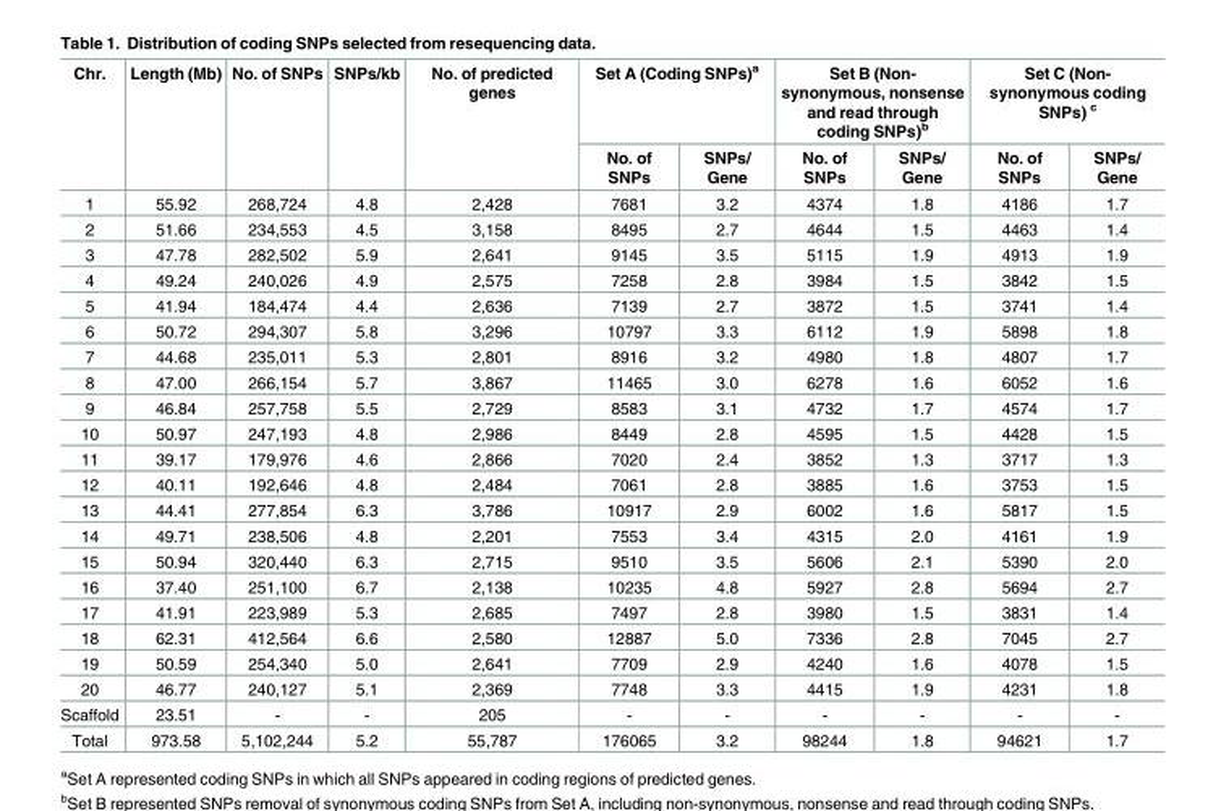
<table><thead><tr><td rowspan="2">Chr.</td><td rowspan="2">Length (Mb)</td><td rowspan="2">No. of SNPs</td><td rowspan="2">SNPs/kb</td><td rowspan="2">No. of predicted genes</td><td colspan="2">Set A (Coding SNPs)<sup>a</sup></td><td colspan="2">Set B (Non- synonymous, nonsense and read through coding SNPs)<sup>b</sup></td><td colspan="2">Set C (Non- synonymous coding SNPs) <sup>c</sup></td></tr><tr><td>No. of SNPs</td><td>SNPs/ Gene</td><td>No. of SNPs</td><td>SNPs/ Gene</td><td>No. of SNPs</td><td>SNPs/ Gene</td></tr></thead><tbody><tr><td>1</td><td>55.92</td><td>268,724</td><td>4.8</td><td>2,428</td><td>7681</td><td>3.2</td><td>4374</td><td>1.8</td><td>4186</td><td>1.7</td></tr><tr><td>2</td><td>51.66</td><td>234,553</td><td>4.5</td><td>3,158</td><td>8495</td><td>2.7</td><td>4644</td><td>1.5</td><td>4463</td><td>1.4</td></tr><tr><td>3</td><td>47.78</td><td>282,502</td><td>5.9</td><td>2,641</td><td>9145</td><td>3.5</td><td>5115</td><td>1.9</td><td>4913</td><td>1.9</td></tr><tr><td>4</td><td>49.24</td><td>240,026</td><td>4.9</td><td>2,575</td><td>7258</td><td>2.8</td><td>3984</td><td>1.5</td><td>3842</td><td>1.5</td></tr><tr><td>5</td><td>41.94</td><td>184,474</td><td>4.4</td><td>2,636</td><td>7139</td><td>2.7</td><td>3872</td><td>1.5</td><td>3741</td><td>1.4</td></tr><tr><td>6</td><td>50.72</td><td>294,307</td><td>5.8</td><td>3,296</td><td>10797</td><td>3.3</td><td>6112</td><td>1.9</td><td>5898</td><td>1.8</td></tr><tr><td>7</td><td>44.68</td><td>235,011</td><td>5.3</td><td>2,801</td><td>8916</td><td>3.2</td><td>4980</td><td>1.8</td><td>4807</td><td>1.7</td></tr><tr><td>8</td><td>47.00</td><td>266,154</td><td>5.7</td><td>3,867</td><td>11465</td><td>3.0</td><td>6278</td><td>1.6</td><td>6052</td><td>1.6</td></tr><tr><td>9</td><td>46.84</td><td>257,758</td><td>5.5</td><td>2,729</td><td>8583</td><td>3.1</td><td>4732</td><td>1.7</td><td>4574</td><td>1.7</td></tr><tr><td>10</td><td>50.97</td><td>247,193</td><td>4.8</td><td>2,986</td><td>8449</td><td>2.8</td><td>4595</td><td>1.5</td><td>4428</td><td>1.5</td></tr><tr><td>11</td><td>39.17</td><td>179,976</td><td>4.6</td><td>2,866</td><td>7020</td><td>2.4</td><td>3852</td><td>1.3</td><td>3717</td><td>1.3</td></tr><tr><td>12</td><td>40.11</td><td>192,646</td><td>4.8</td><td>2,484</td><td>7061</td><td>2.8</td><td>3885</td><td>1.6</td><td>3753</td><td>1.5</td></tr><tr><td>13</td><td>44.41</td><td>277,854</td><td>6.3</td><td>3,786</td><td>10917</td><td>2.9</td><td>6002</td><td>1.6</td><td>5817</td><td>1.5</td></tr><tr><td>14</td><td>49.71</td><td>238,506</td><td>4.8</td><td>2,201</td><td>7553</td><td>3.4</td><td>4315</td><td>2.0</td><td>4161</td><td>1.9</td></tr><tr><td>15</td><td>50.94</td><td>320,440</td><td>6.3</td><td>2,715</td><td>9510</td><td>3.5</td><td>5606</td><td>2.1</td><td>5390</td><td>2.0</td></tr><tr><td>16</td><td>37.40</td><td>251,100</td><td>6.7</td><td>2,138</td><td>10235</td><td>4.8</td><td>5927</td><td>2.8</td><td>5694</td><td>2.7</td></tr><tr><td>17</td><td>41.91</td><td>223,989</td><td>5.3</td><td>2,685</td><td>7497</td><td>2.8</td><td>3980</td><td>1.5</td><td>3831</td><td>1.4</td></tr><tr><td>18</td><td>62.31</td><td>412,564</td><td>6.6</td><td>2,580</td><td>12887</td><td>5.0</td><td>7336</td><td>2.8</td><td>7045</td><td>2.7</td></tr><tr><td>19</td><td>50.59</td><td>254,340</td><td>5.0</td><td>2,641</td><td>7709</td><td>2.9</td><td>4240</td><td>1.6</td><td>4078</td><td>1.5</td></tr><tr><td>20</td><td>46.77</td><td>240,127</td><td>5.1</td><td>2,369</td><td>7748</td><td>3.3</td><td>4415</td><td>1.9</td><td>4231</td><td>1.8</td></tr><tr><td>Scaffold</td><td>23.51</td><td>-</td><td>-</td><td>205</td><td>-</td><td>-</td><td>-</td><td>-</td><td>-</td><td>-</td></tr><tr><td>Total</td><td>973.58</td><td>5,102,244</td><td>5.2</td><td>55,787</td><td>176065</td><td>3.2</td><td>98244</td><td>1.8</td><td>94621</td><td>1.7</td></tr></tbody></table>